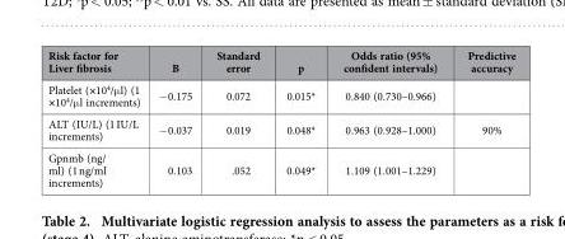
<table><thead><tr><td>Risk factor for Liver fibrosis</td><td>B</td><td>Standard error</td><td>p</td><td>Odds ratio (95% confident intervals)</td><td>Predictive accuracy</td></tr></thead><tbody><tr><td>Platelet (×10<sup>4</sup>/μ l) (1 ×10<sup>4</sup>/μ l increments)</td><td>− 0.175</td><td>0.072</td><td>0.015*</td><td>0.840 (0.730–0.966)</td><td></td></tr><tr><td>ALT (IU/L) (1 IU/L increments)</td><td>− 0.037</td><td>0.019</td><td>0.048*</td><td>0.963 (0.928–1.000)</td><td>90%</td></tr><tr><td>Gpnmb (ng/ ml) (1 ng/ml increments)</td><td>0.103</td><td>.052</td><td>0.049*</td><td>1.109 (1.001–1.229)</td><td></td></tr></tbody></table>